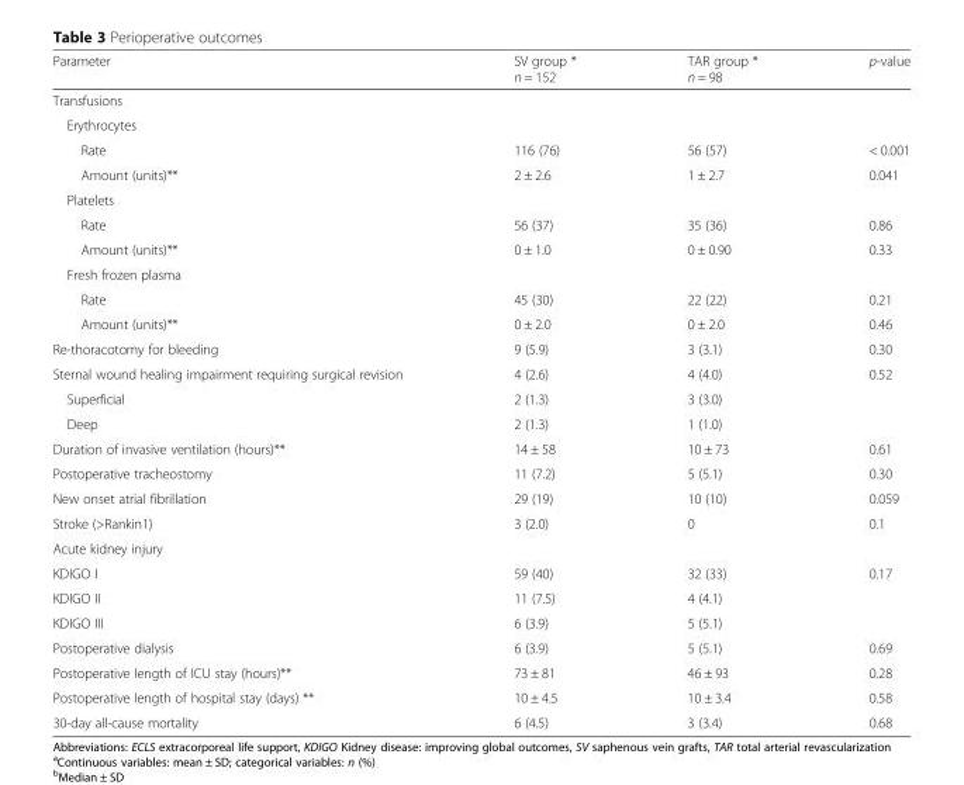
<table><thead><tr><td>Parameter</td><td>SV group * n = 152</td><td>TAR group * n = 98</td><td>p-value</td></tr></thead><tbody><tr><td colspan="4">Transfusions</td></tr><tr><td colspan="4">Erythrocytes</td></tr><tr><td>Rate</td><td>116 (76)</td><td>56 (57)</td><td>&lt; 0.001</td></tr><tr><td>Amount (units)**</td><td>2 ± 2.6</td><td>1 ± 2.7</td><td>0.041</td></tr><tr><td colspan="4">Platelets</td></tr><tr><td>Rate</td><td>56 (37)</td><td>35 (36)</td><td>0.86</td></tr><tr><td>Amount (units)**</td><td>0 ± 1.0</td><td>0 ± 0.90</td><td>0.33</td></tr><tr><td colspan="4">Fresh frozen plasma</td></tr><tr><td>Rate</td><td>45 (30)</td><td>22 (22)</td><td>0.21</td></tr><tr><td>Amount (units)**</td><td>0 ± 2.0</td><td>0 ± 2.0</td><td>0.46</td></tr><tr><td>Re-thoracotomy for bleeding</td><td>9 (5.9)</td><td>3 (3.1)</td><td>0.30</td></tr><tr><td>Sternal wound healing impairment requiring surgical revision</td><td>4 (2.6)</td><td>4 (4.0)</td><td rowspan="3">0.52</td></tr><tr><td>Superficial</td><td>2 (1.3)</td><td>3 (3.0)</td></tr><tr><td>Deep</td><td>2 (1.3)</td><td>1 (1.0)</td></tr><tr><td>Duration of invasive ventilation (hours)**</td><td>14 ± 58</td><td>10 ± 73</td><td>0.61</td></tr><tr><td>Postoperative tracheostomy</td><td>11 (7.2)</td><td>5 (5.1)</td><td>0.30</td></tr><tr><td>New onset atrial fibrillation</td><td>29 (19)</td><td>10 (10)</td><td>0.059</td></tr><tr><td>Stroke (&gt;Rankin1)</td><td>3 (2.0)</td><td>0</td><td>0.1</td></tr><tr><td colspan="4">Acute kidney injury</td></tr><tr><td>KDIGO I</td><td>59 (40)</td><td>32 (33)</td><td rowspan="3">0.17</td></tr><tr><td>KDIGO II</td><td>11 (7.5)</td><td>4 (4.1)</td></tr><tr><td>KDIGO III</td><td>6 (3.9)</td><td>5 (5.1)</td></tr><tr><td>Postoperative dialysis</td><td>6 (3.9)</td><td>5 (5.1)</td><td>0.69</td></tr><tr><td>Postoperative length of ICU stay (hours)**</td><td>73 ± 81</td><td>46 ± 93</td><td>0.28</td></tr><tr><td>Postoperative length of hospital stay (days) **</td><td>10 ± 4.5</td><td>10 ± 3.4</td><td>0.58</td></tr><tr><td>30-day all-cause mortality</td><td>6 (4.5)</td><td>3 (3.4)</td><td>0.68</td></tr></tbody></table>